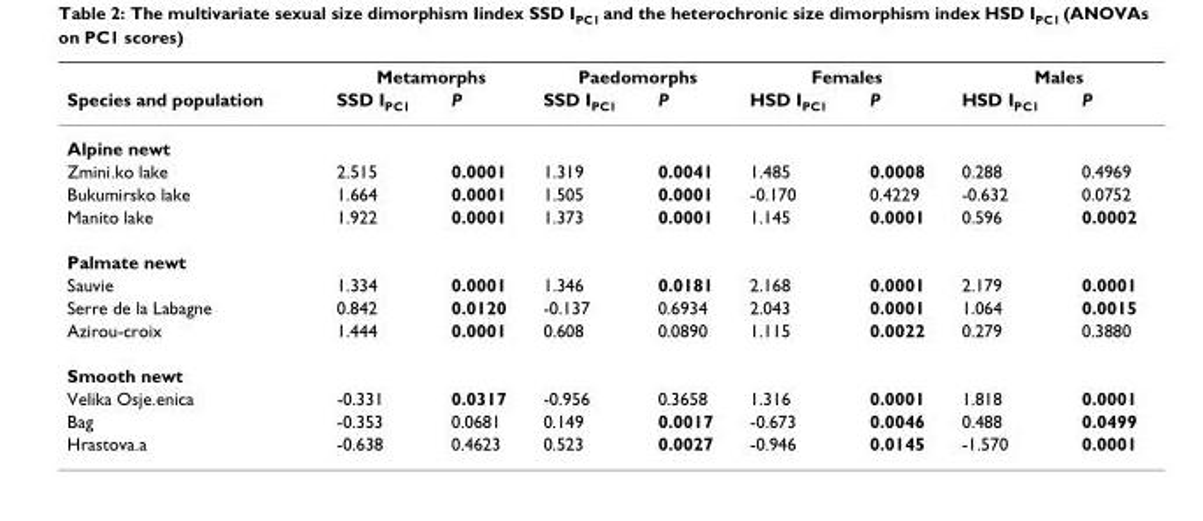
<table><thead><tr><td rowspan="2">Species and population</td><td colspan="2">Metamorphs</td><td colspan="2">Paedomorphs</td><td colspan="2">Females</td><td colspan="2">Males</td></tr><tr><td>SSD I<sub>PC1</sub></td><td>P</td><td>SSD I<sub>PC1</sub></td><td>P</td><td>HSD I<sub>PC1</sub></td><td>P</td><td>HSD I<sub>PC1</sub></td><td>P</td></tr></thead><tbody><tr><td colspan="9">Alpine newt</td></tr><tr><td>Zmini.ko lake</td><td>2.515</td><td>0.0001</td><td>1.319</td><td>0.0041</td><td>1.485</td><td>0.0008</td><td>0.288</td><td>0.4969</td></tr><tr><td>Bukumirsko lake</td><td>1.664</td><td>0.0001</td><td>1.505</td><td>0.0001</td><td>-0.170</td><td>0.4229</td><td>-0.632</td><td>0.0752</td></tr><tr><td>Manito lake</td><td>1.922</td><td>0.0001</td><td>1.373</td><td>0.0001</td><td>1.145</td><td>0.0001</td><td>0.596</td><td>0.0002</td></tr><tr><td colspan="9">Palmate newt</td></tr><tr><td>Sauvie</td><td>1.334</td><td>0.0001</td><td>1.346</td><td>0.0181</td><td>2.168</td><td>0.0001</td><td>2.179</td><td>0.0001</td></tr><tr><td>Serre de la Labagne</td><td>0.842</td><td>0.0120</td><td>-0.137</td><td>0.6934</td><td>2.043</td><td>0.0001</td><td>1.064</td><td>0.0015</td></tr><tr><td>Azirou-croix</td><td>1.444</td><td>0.0001</td><td>0.608</td><td>0.0890</td><td>1.115</td><td>0.0022</td><td>0.279</td><td>0.3880</td></tr><tr><td colspan="9">Smooth newt</td></tr><tr><td>Velika Osje.enica</td><td>-0.331</td><td>0.0317</td><td>-0.956</td><td>0.3658</td><td>1.316</td><td>0.0001</td><td>1.818</td><td>0.0001</td></tr><tr><td>Bag</td><td>-0.353</td><td>0.0681</td><td>0.149</td><td>0.0017</td><td>-0.673</td><td>0.0046</td><td>0.488</td><td>0.0499</td></tr><tr><td>Hrastova.a</td><td>-0.638</td><td>0.4623</td><td>0.523</td><td>0.0027</td><td>-0.946</td><td>0.0145</td><td>-1.570</td><td>0.0001</td></tr></tbody></table>